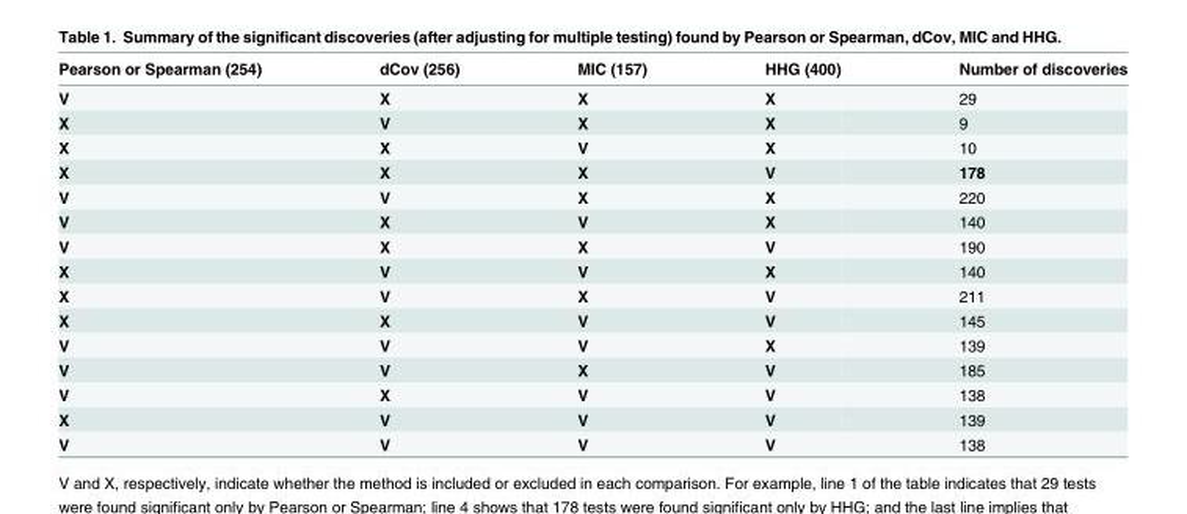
<table><thead><tr><td>Pearson or Spearman (254)</td><td>dCov (256)</td><td>MIC (157)</td><td>HHG (400)</td><td>Number of discoveries</td></tr></thead><tbody><tr><td>V</td><td>X</td><td>X</td><td>X</td><td>29</td></tr><tr><td>X</td><td>V</td><td>X</td><td>X</td><td>9</td></tr><tr><td>X</td><td>X</td><td>V</td><td>X</td><td>10</td></tr><tr><td>X</td><td>X</td><td>X</td><td>V</td><td>178</td></tr><tr><td>V</td><td>V</td><td>X</td><td>X</td><td>220</td></tr><tr><td>V</td><td>X</td><td>V</td><td>X</td><td>140</td></tr><tr><td>V</td><td>X</td><td>X</td><td>V</td><td>190</td></tr><tr><td>X</td><td>V</td><td>V</td><td>X</td><td>140</td></tr><tr><td>X</td><td>V</td><td>X</td><td>V</td><td>211</td></tr><tr><td>X</td><td>X</td><td>V</td><td>V</td><td>145</td></tr><tr><td>V</td><td>V</td><td>V</td><td>X</td><td>139</td></tr><tr><td>V</td><td>V</td><td>X</td><td>V</td><td>185</td></tr><tr><td>V</td><td>X</td><td>V</td><td>V</td><td>138</td></tr><tr><td>X</td><td>V</td><td>V</td><td>V</td><td>139</td></tr><tr><td>V</td><td>V</td><td>V</td><td>V</td><td>138</td></tr></tbody></table>